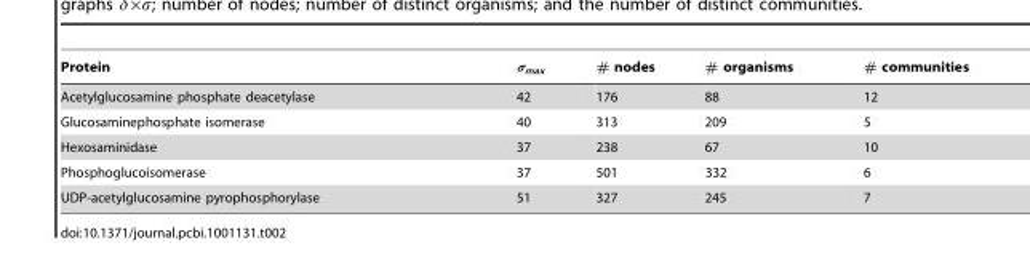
<table><thead><tr><td>Protein</td><td>σ<sub>max</sub></td><td># nodes</td><td># organisms</td><td># communities</td></tr></thead><tbody><tr><td>Acetylglucosamine phosphate deacetylase</td><td>42</td><td>176</td><td>88</td><td>12</td></tr><tr><td>Glucosaminephosphate isomerase</td><td>40</td><td>313</td><td>209</td><td>5</td></tr><tr><td>Hexosaminidase</td><td>37</td><td>238</td><td>67</td><td>10</td></tr><tr><td>Phosphoglucoisomerase</td><td>37</td><td>501</td><td>332</td><td>6</td></tr><tr><td>UDP-acetylglucosamine pyrophosphorylase</td><td>51</td><td>327</td><td>245</td><td>7</td></tr></tbody></table>